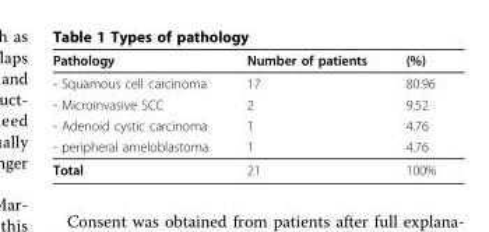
<table><thead><tr><td>Pathology</td><td>Number of patients</td><td>(%)</td></tr></thead><tbody><tr><td>- Squamous cell carcinoma</td><td>17</td><td>80.96</td></tr><tr><td>- Microinvasive SCC</td><td>2</td><td>9.52</td></tr><tr><td>- Adenoid cystic carcinoma</td><td>1</td><td>4.76</td></tr><tr><td>- peripheral ameloblastoma</td><td>1</td><td>4.76</td></tr><tr><td>Total</td><td>21</td><td>100%</td></tr></tbody></table>